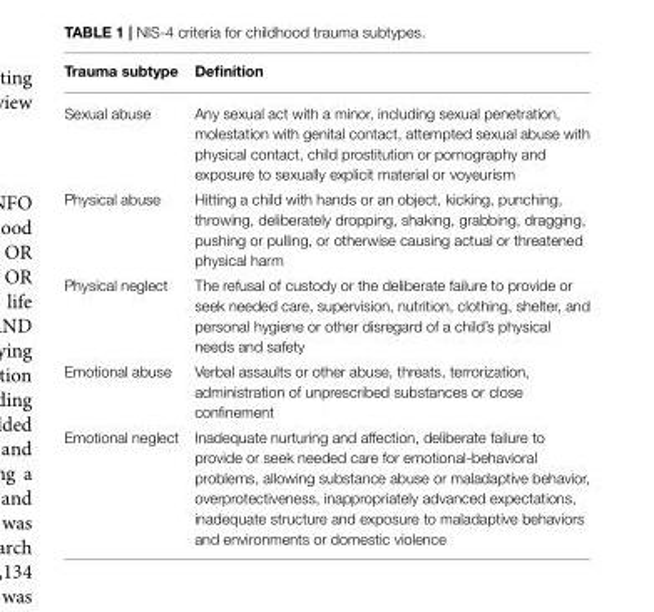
<table><thead><tr><td>Trauma subtype</td><td>Definition</td></tr></thead><tbody><tr><td>Sexual abuse</td><td>Any sexual act with a minor, including sexual penetration, molestation with genital contact, attempted sexual abuse with physical contact, child prostitution or pornography and exposure to sexually explicit material or voyeurism</td></tr><tr><td>Physical abuse</td><td>Hitting a child with hands or an object, kicking, punching, throwing, deliberately dropping, shaking, grabbing, dragging, pushing or pulling, or otherwise causing actual or threatened physical harm</td></tr><tr><td>Physical neglect</td><td>The refusal of custody or the deliberate failure to provide or seek needed care, supervision, nutrition, clothing, shelter, and personal hygiene or other disregard of a child’s physical needs and safety</td></tr><tr><td>Emotional abuse</td><td>Verbal assaults or other abuse, threats, terrorization, administration of unprescribed substances or close confinement</td></tr><tr><td>Emotional neglect</td><td>Inadequate nurturing and affection, deliberate failure to provide or seek needed care for emotional-behavioral problems, allowing substance abuse or maladaptive behavior, overprotectiveness, inappropriately advanced expectations, inadequate structure and exposure to maladaptive behaviors and environments or domestic violence</td></tr></tbody></table>